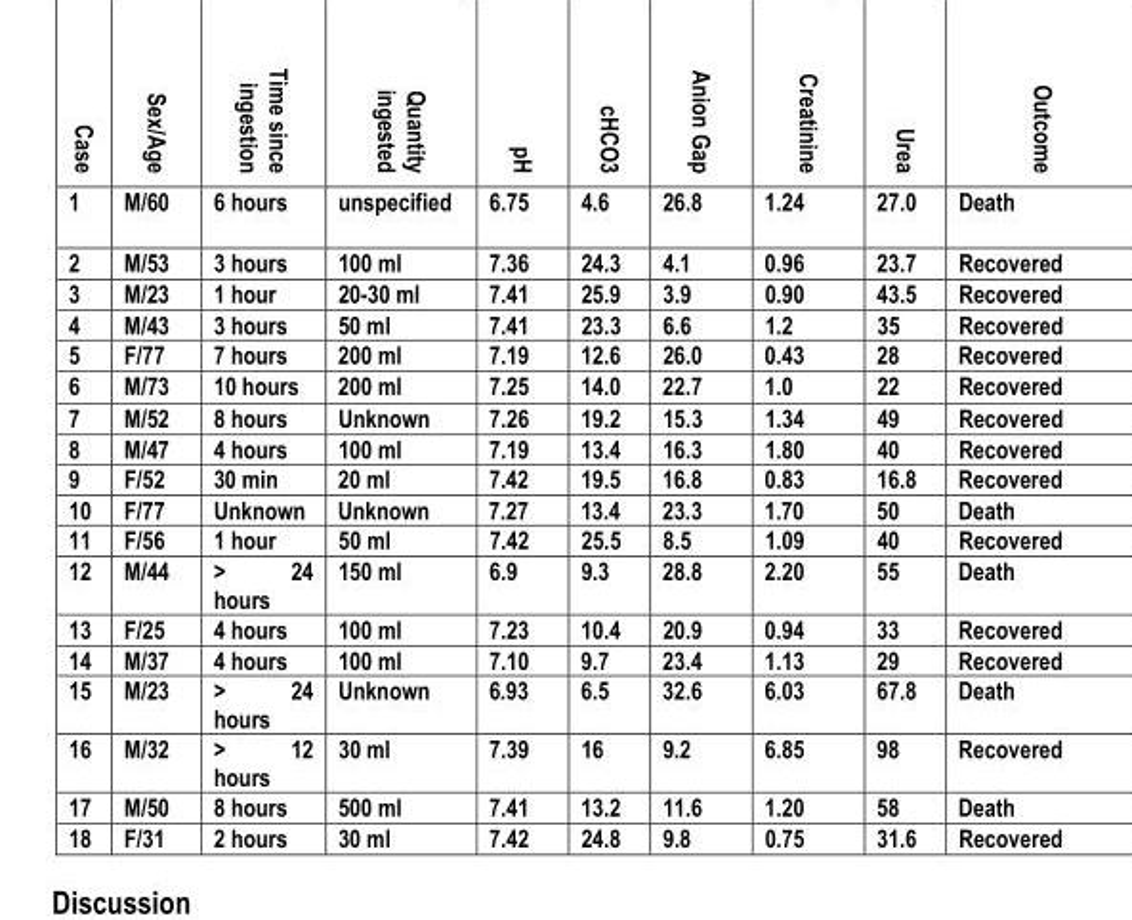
<table><thead><tr><td rowspan="19">Case 1 2 3 4 5 6 7 8 9 10 11 12 13 14 15 16 17 18</td><td rowspan="19">Sex/Age M/60 M/53 M/23 M/43 F/77 M/73 M/52 M/47 F/52 F/77 F/56 M/44 F/25 M/37 M/23 M/32 M/50 F/31</td><td rowspan="19">Time since ingestion 6 hours 3 hours 1 hour 3 hours 7 hours 10 hours 8 hours 4 hours 30 min Unknown 1 hour &gt; 24 hours 4 hours 4 hours &gt; 24 hours &gt; 12 hours 8 hours 2 hours</td><td rowspan="19">Quantity ingested unspecified 100 ml 20-30 ml 50 ml 200 ml 200 ml Unknown 100 ml 20 ml Unknown 50 ml 150 ml 100 ml 100 ml Unknown 30 ml 500 ml 30 ml</td><td rowspan="19">pH 6.75 7.36 7.41 7.41 7.19 7.25 7.26 7.19 7.42 7.27 7.42 6.9 7.23 7.10 6.93 7.39 7.41 7.42</td><td rowspan="19">cHCO3 4.6 24.3 25.9 23.3 12.6 14.0 19.2 13.4 19.5 13.4 25.5 9.3 10.4 9.7 6.5 16 13.2 24.8</td><td rowspan="19">Anion Gap 26.8 4.1 3.9 6.6 26.0 22.7 15.3 16.3 16.8 23.3 8.5 28.8 20.9 23.4 32.6 9.2 11.6 9.8</td><td rowspan="19">Creatinine 1.24 0.96 0.90 1.2 0.43 1.0 1.34 1.80 0.83 1.70 1.09 2.20 0.94 1.13 6.03 6.85 1.20 0.75</td><td rowspan="19">Urea 27.0 23.7 43.5 35 28 22 49 40 16.8 50 40 55 33 29 67.8 98 58 31.6</td><td rowspan="19">Outcome Death Recovered Recovered Recovered Recovered Recovered Recovered Recovered Recovered Death Recovered Death Recovered Recovered Death Recovered Death Recovered</td></tr><tr></tr><tr></tr><tr></tr><tr></tr><tr></tr><tr></tr><tr></tr><tr></tr><tr></tr><tr></tr><tr></tr><tr></tr><tr></tr><tr></tr><tr></tr><tr></tr><tr></tr><tr></tr></thead><tbody></tbody></table>